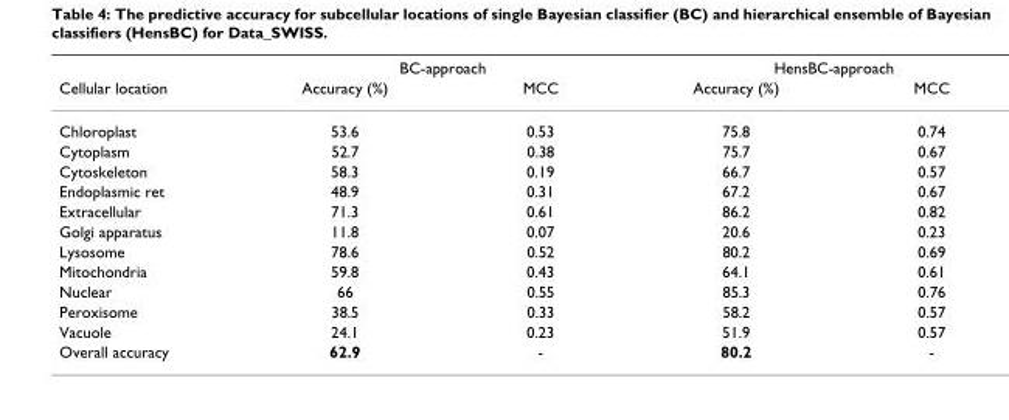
<table><thead><tr><td rowspan="2">Cellular location</td><td colspan="2">BC-approach</td><td colspan="2">HensBC-approach</td></tr><tr><td>Accuracy (%)</td><td>MCC</td><td>Accuracy (%)</td><td>MCC</td></tr></thead><tbody><tr><td>Chloroplast</td><td>53.6</td><td>0.53</td><td>75.8</td><td>0.74</td></tr><tr><td>Cytoplasm</td><td>52.7</td><td>0.38</td><td>75.7</td><td>0.67</td></tr><tr><td>Cytoskeleton</td><td>58.3</td><td>0.19</td><td>66.7</td><td>0.57</td></tr><tr><td>Endoplasmic ret</td><td>48.9</td><td>0.31</td><td>67.2</td><td>0.67</td></tr><tr><td>Extracellular</td><td>71.3</td><td>0.61</td><td>86.2</td><td>0.82</td></tr><tr><td>Golgi apparatus</td><td>11.8</td><td>0.07</td><td>20.6</td><td>0.23</td></tr><tr><td>Lysosome</td><td>78.6</td><td>0.52</td><td>80.2</td><td>0.69</td></tr><tr><td>Mitochondria</td><td>59.8</td><td>0.43</td><td>64.1</td><td>0.61</td></tr><tr><td>Nuclear</td><td>66</td><td>0.55</td><td>85.3</td><td>0.76</td></tr><tr><td>Peroxisome</td><td>38.5</td><td>0.33</td><td>58.2</td><td>0.57</td></tr><tr><td>Vacuole</td><td>24.1</td><td>0.23</td><td>51.9</td><td>0.57</td></tr><tr><td>Overall accuracy</td><td>62.9</td><td>-</td><td>80.2</td><td>-</td></tr></tbody></table>